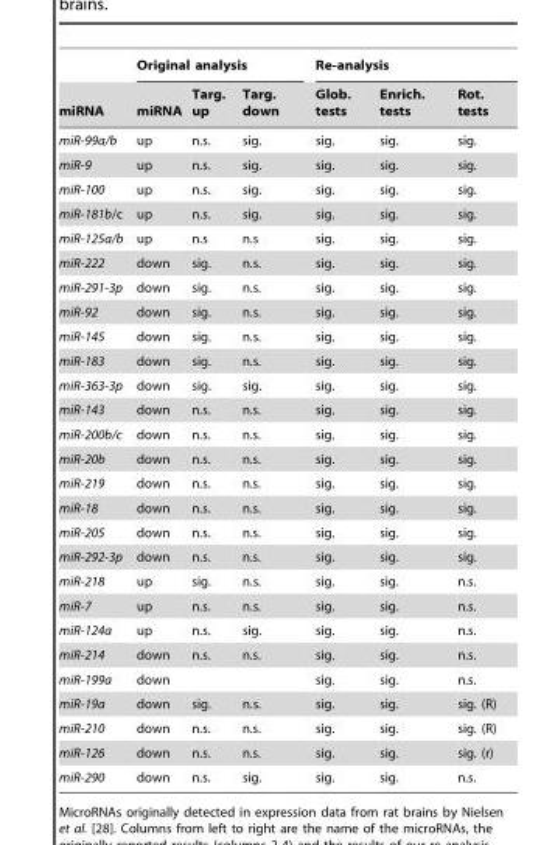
<table><thead><tr><td rowspan="2">miRNA</td><td colspan="3">Original analysis</td><td colspan="3">Re-analysis</td></tr><tr><td>miRNA</td><td>Targ. up</td><td>Targ. down</td><td>Glob. tests</td><td>Enrich. tests</td><td>Rot. tests</td></tr></thead><tbody><tr><td>miR-99a/b</td><td>up</td><td>n.s.</td><td>sig.</td><td>sig.</td><td>sig.</td><td>sig.</td></tr><tr><td>miR-9</td><td>up</td><td>n.s.</td><td>sig.</td><td>sig.</td><td>sig.</td><td>sig.</td></tr><tr><td>miR-100</td><td>up</td><td>n.s.</td><td>sig.</td><td>sig.</td><td>sig.</td><td>sig.</td></tr><tr><td>miR-181b/c</td><td>up</td><td>n.s.</td><td>sig.</td><td>sig.</td><td>sig.</td><td>sig.</td></tr><tr><td>miR-125a/b</td><td>up</td><td>n.s</td><td>n.s</td><td>sig.</td><td>sig.</td><td>sig.</td></tr><tr><td>miR-222</td><td>down</td><td>sig.</td><td>n.s.</td><td>sig.</td><td>sig.</td><td>sig.</td></tr><tr><td>miR-291-3p</td><td>down</td><td>sig.</td><td>n.s.</td><td>sig.</td><td>sig.</td><td>sig.</td></tr><tr><td>miR-92</td><td>down</td><td>sig.</td><td>n.s.</td><td>sig.</td><td>sig.</td><td>sig.</td></tr><tr><td>miR-145</td><td>down</td><td>sig.</td><td>n.s.</td><td>sig.</td><td>sig.</td><td>sig.</td></tr><tr><td>miR-183</td><td>down</td><td>sig.</td><td>n.s.</td><td>sig.</td><td>sig.</td><td>sig.</td></tr><tr><td>miR-363-3p</td><td>down</td><td>sig.</td><td>sig.</td><td>sig.</td><td>sig.</td><td>sig.</td></tr><tr><td>miR-143</td><td>down</td><td>n.s.</td><td>n.s.</td><td>sig.</td><td>sig.</td><td>sig.</td></tr><tr><td>miR-200b/c</td><td>down</td><td>n.s.</td><td>n.s.</td><td>sig.</td><td>sig.</td><td>sig.</td></tr><tr><td>miR-20b</td><td>down</td><td>n.s.</td><td>n.s.</td><td>sig.</td><td>sig.</td><td>sig.</td></tr><tr><td>miR-219</td><td>down</td><td>n.s.</td><td>n.s.</td><td>sig.</td><td>sig.</td><td>sig.</td></tr><tr><td>miR-18</td><td>down</td><td>n.s.</td><td>n.s.</td><td>sig.</td><td>sig.</td><td>sig.</td></tr><tr><td>miR-205</td><td>down</td><td>n.s.</td><td>n.s.</td><td>sig.</td><td>sig.</td><td>sig.</td></tr><tr><td>miR-292-3p</td><td>down</td><td>n.s.</td><td>n.s.</td><td>sig.</td><td>sig.</td><td>sig.</td></tr><tr><td>miR-218</td><td>up</td><td>sig.</td><td>n.s.</td><td>sig.</td><td>sig.</td><td>n.s.</td></tr><tr><td>miR-7</td><td>up</td><td>n.s.</td><td>n.s.</td><td>sig.</td><td>sig.</td><td>n.s.</td></tr><tr><td>miR-124a</td><td>up</td><td>n.s.</td><td>sig.</td><td>sig.</td><td>sig.</td><td>n.s.</td></tr><tr><td>miR-214</td><td>down</td><td>n.s.</td><td>n.s.</td><td>sig.</td><td>sig.</td><td>n.s.</td></tr><tr><td>miR-199a</td><td>down</td><td></td><td></td><td>sig.</td><td>sig.</td><td>n.s.</td></tr><tr><td>miR-19a</td><td>down</td><td>sig.</td><td>n.s.</td><td>sig.</td><td>sig.</td><td>sig. (R)</td></tr><tr><td>miR-210</td><td>down</td><td>n.s.</td><td>n.s.</td><td>sig.</td><td>sig.</td><td>sig. (R)</td></tr><tr><td>miR-126</td><td>down</td><td>n.s.</td><td>n.s.</td><td>sig.</td><td>sig.</td><td>sig. (r)</td></tr><tr><td>miR-290</td><td>down</td><td>n.s.</td><td>sig.</td><td>sig.</td><td>sig.</td><td>n.s.</td></tr></tbody></table>